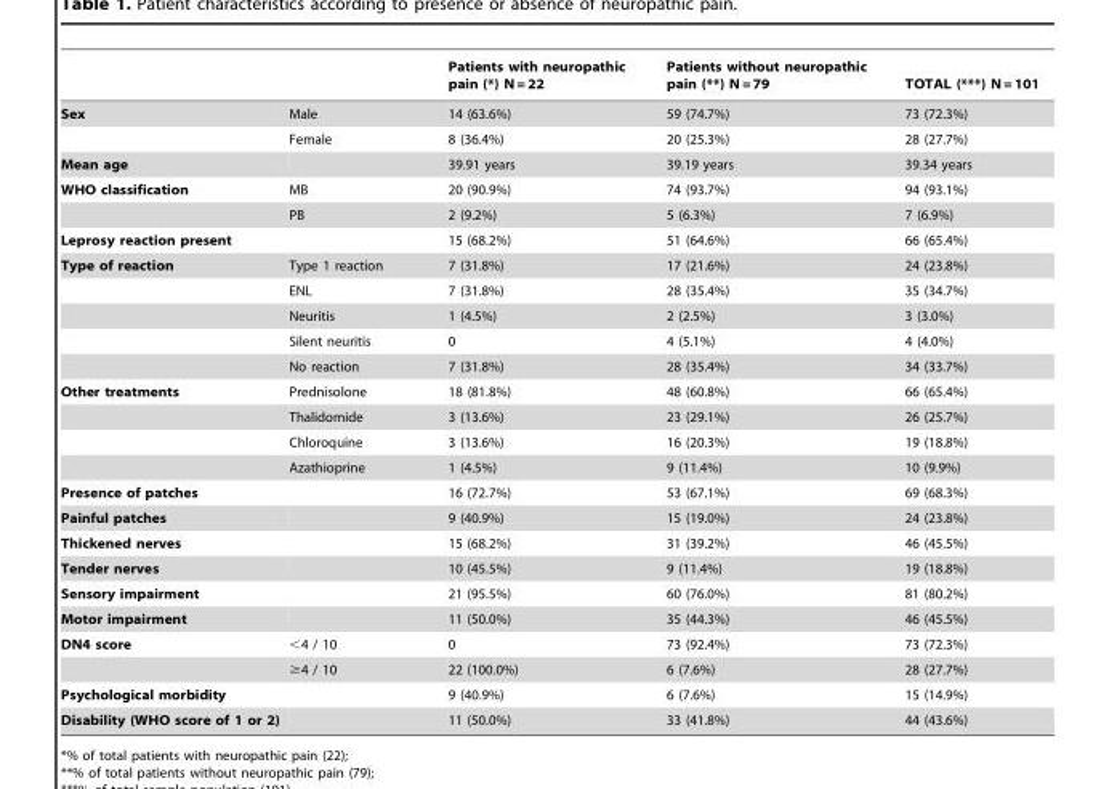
<table><thead><tr><td></td><td></td><td>Patients with neuropathic pain (*) N = 22</td><td>Patients without neuropathic pain (**) N = 79</td><td>TOTAL (***) N = 101</td></tr></thead><tbody><tr><td rowspan="2">Sex</td><td>Male</td><td>14 (63.6%)</td><td>59 (74.7%)</td><td>73 (72.3%)</td></tr><tr><td>Female</td><td>8 (36.4%)</td><td>20 (25.3%)</td><td>28 (27.7%)</td></tr><tr><td>Mean age</td><td></td><td>39.91 years</td><td>39.19 years</td><td>39.34 years</td></tr><tr><td rowspan="2">WHO classification</td><td>MB</td><td>20 (90.9%)</td><td>74 (93.7%)</td><td>94 (93.1%)</td></tr><tr><td>PB</td><td>2 (9.2%)</td><td>5 (6.3%)</td><td>7 (6.9%)</td></tr><tr><td>Leprosy reaction present</td><td></td><td>15 (68.2%)</td><td>51 (64.6%)</td><td>66 (65.4%)</td></tr><tr><td rowspan="5">Type of reaction</td><td>Type 1 reaction</td><td>7 (31.8%)</td><td>17 (21.6%)</td><td>24 (23.8%)</td></tr><tr><td>ENL</td><td>7 (31.8%)</td><td>28 (35.4%)</td><td>35 (34.7%)</td></tr><tr><td>Neuritis</td><td>1 (4.5%)</td><td>2 (2.5%)</td><td>3 (3.0%)</td></tr><tr><td>Silent neuritis</td><td>0</td><td>4 (5.1%)</td><td>4 (4.0%)</td></tr><tr><td>No reaction</td><td>7 (31.8%)</td><td>28 (35.4%)</td><td>34 (33.7%)</td></tr><tr><td rowspan="4">Other treatments</td><td>Prednisolone</td><td>18 (81.8%)</td><td>48 (60.8%)</td><td>66 (65.4%)</td></tr><tr><td>Thalidomide</td><td>3 (13.6%)</td><td>23 (29.1%)</td><td>26 (25.7%)</td></tr><tr><td>Chloroquine</td><td>3 (13.6%)</td><td>16 (20.3%)</td><td>19 (18.8%)</td></tr><tr><td>Azathioprine</td><td>1 (4.5%)</td><td>9 (11.4%)</td><td>10 (9.9%)</td></tr><tr><td>Presence of patches</td><td></td><td>16 (72.7%)</td><td>53 (67.1%)</td><td>69 (68.3%)</td></tr><tr><td>Painful patches</td><td></td><td>9 (40.9%)</td><td>15 (19.0%)</td><td>24 (23.8%)</td></tr><tr><td>Thickened nerves</td><td></td><td>15 (68.2%)</td><td>31 (39.2%)</td><td>46 (45.5%)</td></tr><tr><td>Tender nerves</td><td></td><td>10 (45.5%)</td><td>9 (11.4%)</td><td>19 (18.8%)</td></tr><tr><td>Sensory impairment</td><td></td><td>21 (95.5%)</td><td>60 (76.0%)</td><td>81 (80.2%)</td></tr><tr><td>Motor impairment</td><td></td><td>11 (50.0%)</td><td>35 (44.3%)</td><td>46 (45.5%)</td></tr><tr><td rowspan="2">DN4 score</td><td>&lt;4 / 10</td><td>0</td><td>73 (92.4%)</td><td>73 (72.3%)</td></tr><tr><td>≥4 / 10</td><td>22 (100.0%)</td><td>6 (7.6%)</td><td>28 (27.7%)</td></tr><tr><td>Psychological morbidity</td><td></td><td>9 (40.9%)</td><td>6 (7.6%)</td><td>15 (14.9%)</td></tr><tr><td>Disability (WHO score of 1 or 2)</td><td></td><td>11 (50.0%)</td><td>33 (41.8%)</td><td>44 (43.6%)</td></tr></tbody></table>